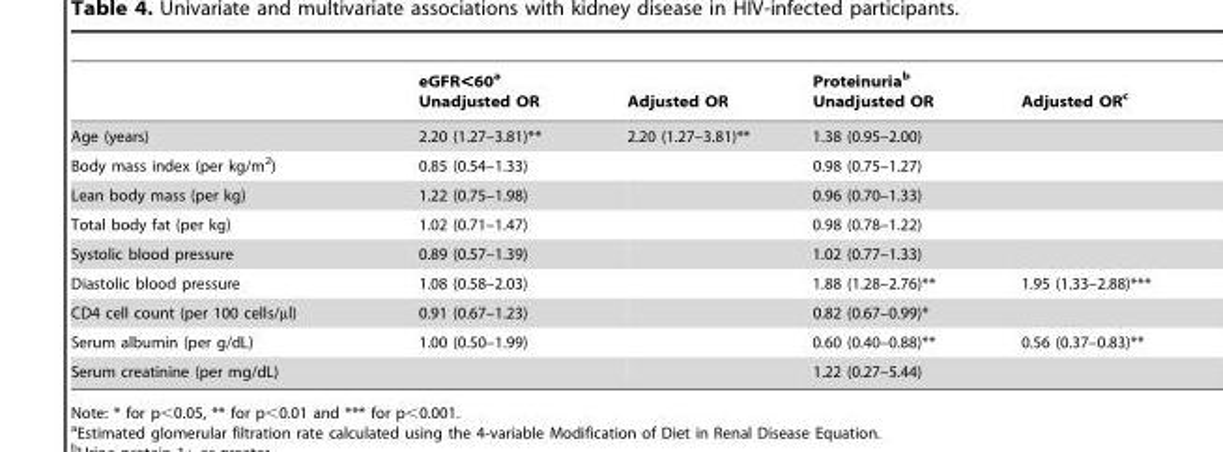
<table><thead><tr><td></td><td>eGFR&lt;60<sup>a</sup> Unadjusted OR</td><td>Adjusted OR</td><td>Proteinuria<sup>b</sup> Unadjusted OR</td><td>Adjusted OR<sup>c</sup></td></tr></thead><tbody><tr><td>Age (years)</td><td>2.20 (1.27–3.81)**</td><td>2.20 (1.27–3.81)**</td><td>1.38 (0.95–2.00)</td><td></td></tr><tr><td>Body mass index (per kg/m<sup>2</sup>)</td><td>0.85 (0.54–1.33)</td><td></td><td>0.98 (0.75–1.27)</td><td></td></tr><tr><td>Lean body mass (per kg)</td><td>1.22 (0.75–1.98)</td><td></td><td>0.96 (0.70–1.33)</td><td></td></tr><tr><td>Total body fat (per kg)</td><td>1.02 (0.71–1.47)</td><td></td><td>0.98 (0.78–1.22)</td><td></td></tr><tr><td>Systolic blood pressure</td><td>0.89 (0.57–1.39)</td><td></td><td>1.02 (0.77–1.33)</td><td></td></tr><tr><td>Diastolic blood pressure</td><td>1.08 (0.58–2.03)</td><td></td><td>1.88 (1.28–2.76)**</td><td>1.95 (1.33–2.88)***</td></tr><tr><td>CD4 cell count (per 100 cells/µl)</td><td>0.91 (0.67–1.23)</td><td></td><td>0.82 (0.67–0.99)*</td><td></td></tr><tr><td>Serum albumin (per g/dL)</td><td>1.00 (0.50–1.99)</td><td></td><td>0.60 (0.40–0.88)**</td><td>0.56 (0.37–0.83)**</td></tr><tr><td>Serum creatinine (per mg/dL)</td><td></td><td></td><td>1.22 (0.27–5.44)</td><td></td></tr></tbody></table>